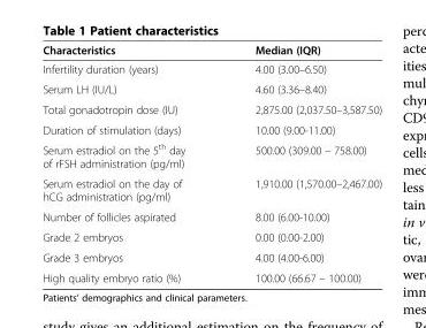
<table><thead><tr><td>Characteristics</td><td>Median (IQR)</td></tr></thead><tbody><tr><td>Infertility duration (years)</td><td>4.00 (3.00–6.50)</td></tr><tr><td>Serum LH (IU/L)</td><td>4.60 (3.36–8.40)</td></tr><tr><td>Total gonadotropin dose (IU)</td><td>2,875.00 (2,037.50–3,587.50)</td></tr><tr><td>Duration of stimulation (days)</td><td>10.00 (9.00-11.00)</td></tr><tr><td>Serum estradiol on the 5<sup>th</sup> day of rFSH administration (pg/ml)</td><td>500.00 (309.00 – 758.00)</td></tr><tr><td>Serum estradiol on the day of hCG administration (pg/ml)</td><td>1,910.00 (1,570.00–2,467.00)</td></tr><tr><td>Number of follicles aspirated</td><td>8.00 (6.00-10.00)</td></tr><tr><td>Grade 2 embryos</td><td>0.00 (0.00-2.00)</td></tr><tr><td>Grade 3 embryos</td><td>4.00 (4.00-6.00)</td></tr><tr><td>High quality embryo ratio (%)</td><td>100.00 (66.67 – 100.00)</td></tr></tbody></table>